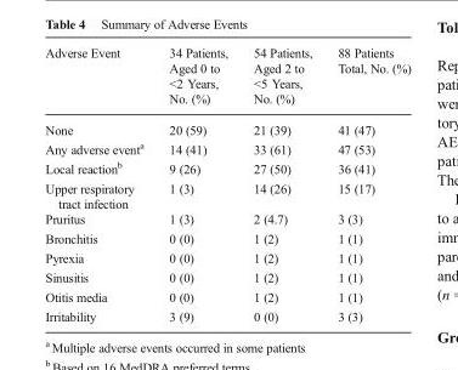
<table><thead><tr><td>Adverse Event</td><td>34 Patients, Aged 0 to &lt;2 Years, No. (%)</td><td>54 Patients, Aged 2 to &lt;5 Years, No. (%)</td><td>88 Patients Total, No. (%)</td></tr></thead><tbody><tr><td>None</td><td>20 (59)</td><td>21 (39)</td><td>41 (47)</td></tr><tr><td>Any adverse eventa</td><td>14 (41)</td><td>33 (61)</td><td>47 (53)</td></tr><tr><td>Local reactionb</td><td>9 (26)</td><td>27 (50)</td><td>36 (41)</td></tr><tr><td>Upper respiratory tract infection</td><td>1 (3)</td><td>14 (26)</td><td>15 (17)</td></tr><tr><td>Pruritus</td><td>1 (3)</td><td>2 (4.7)</td><td>3 (3)</td></tr><tr><td>Bronchitis</td><td>0 (0)</td><td>1 (2)</td><td>1 (1)</td></tr><tr><td>Pyrexia</td><td>0 (0)</td><td>1 (2)</td><td>1 (1)</td></tr><tr><td>Sinusitis</td><td>0 (0)</td><td>1 (2)</td><td>1 (1)</td></tr><tr><td>Otitis media</td><td>0 (0)</td><td>1 (2)</td><td>1 (1)</td></tr><tr><td>Irritability</td><td>3 (9)</td><td>0 (0)</td><td>3 (3)</td></tr></tbody></table>